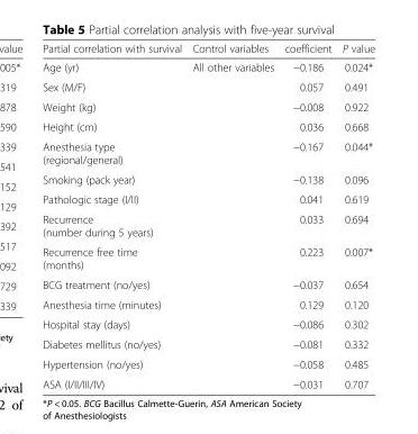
<table><thead><tr><td>Partial correlation with survival</td><td>Control variables</td><td>coefficient</td><td>P value</td></tr></thead><tbody><tr><td>Age (yr)</td><td rowspan="15">All other variables</td><td>−0.186</td><td>0.024*</td></tr><tr><td>Sex (M/F)</td><td>0.057</td><td>0.491</td></tr><tr><td>Weight (kg)</td><td>−0.008</td><td>0.922</td></tr><tr><td>Height (cm)</td><td>0.036</td><td>0.668</td></tr><tr><td>Anesthesia type (regional/general)</td><td>−0.167</td><td>0.044*</td></tr><tr><td>Smoking (pack year)</td><td>−0.138</td><td>0.096</td></tr><tr><td>Pathologic stage (I/II)</td><td>0.041</td><td>0.619</td></tr><tr><td>Recurrence (number during 5 years)</td><td>0.033</td><td>0.694</td></tr><tr><td>Recurrence free time (months)</td><td>0.223</td><td>0.007*</td></tr><tr><td>BCG treatment (no/yes)</td><td>−0.037</td><td>0.654</td></tr><tr><td>Anesthesia time (minutes)</td><td>0.129</td><td>0.120</td></tr><tr><td>Hospital stay (days)</td><td>−0.086</td><td>0.302</td></tr><tr><td>Diabetes mellitus (no/yes)</td><td>−0.081</td><td>0.332</td></tr><tr><td>Hypertension (no/yes)</td><td>−0.058</td><td>0.485</td></tr><tr><td>ASA (I/II/III/IV)</td><td>−0.031</td><td>0.707</td></tr></tbody></table>